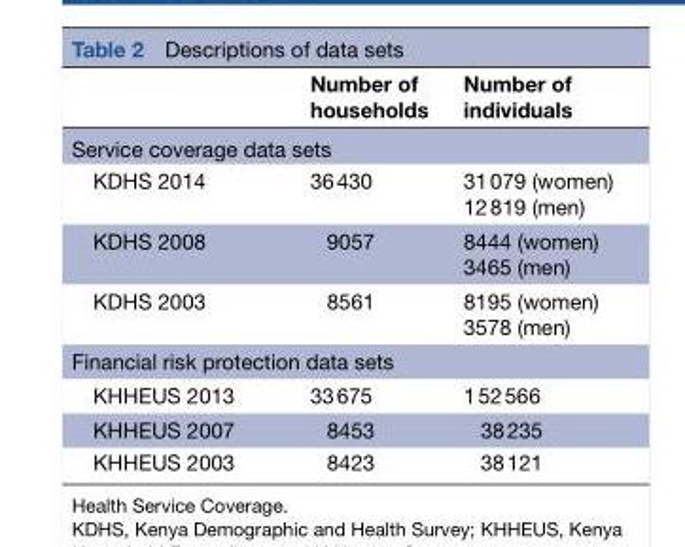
<table><thead><tr><td></td><td>Number of households</td><td>Number of individuals</td></tr></thead><tbody><tr><td colspan="3">Service coverage data sets</td></tr><tr><td>KDHS 2014</td><td>36 430</td><td>31 079 (women) 12 819 (men)</td></tr><tr><td>KDHS 2008</td><td>9057</td><td>8444 (women) 3465 (men)</td></tr><tr><td>KDHS 2003</td><td>8561</td><td>8195 (women) 3578 (men)</td></tr><tr><td colspan="3">Financial risk protection data sets</td></tr><tr><td>KHHEUS 2013</td><td>33 675</td><td>1 52 566</td></tr><tr><td>KHHEUS 2007</td><td>8453</td><td>38 235</td></tr><tr><td>KHHEUS 2003</td><td>8423</td><td>38 121</td></tr></tbody></table>